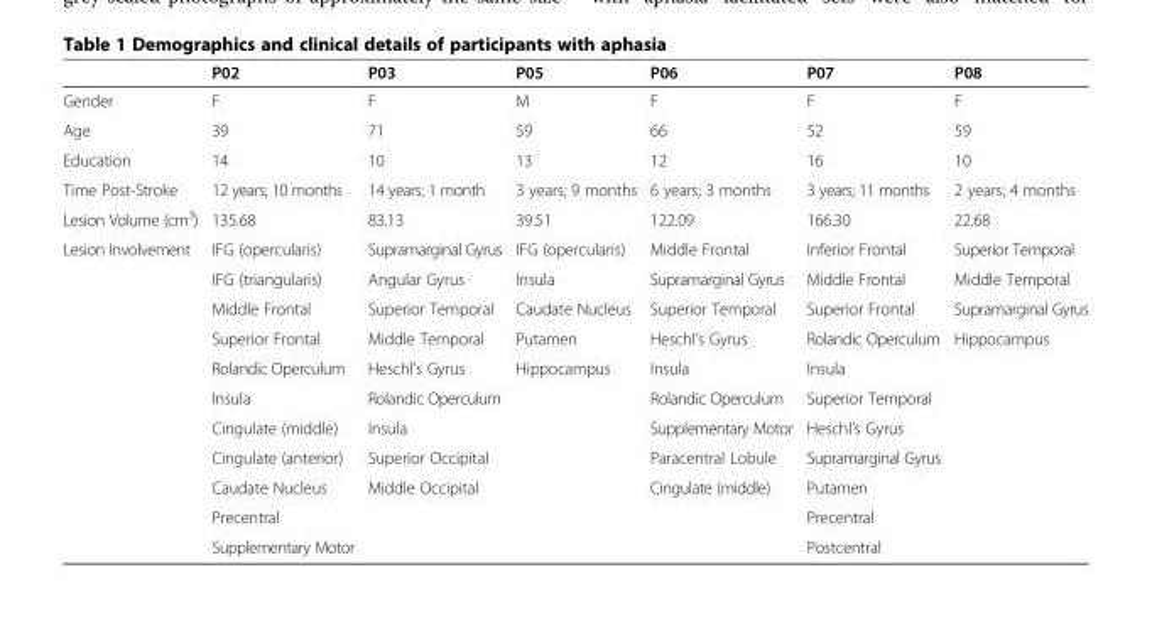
<table><thead><tr><td></td><td>P02</td><td>P03</td><td>P05</td><td>P06</td><td>P07</td><td>P08</td></tr></thead><tbody><tr><td>Gender</td><td>F</td><td>F</td><td>M</td><td>F</td><td>F</td><td>F</td></tr><tr><td>Age</td><td>39</td><td>71</td><td>59</td><td>66</td><td>52</td><td>59</td></tr><tr><td>Education</td><td>14</td><td>10</td><td>13</td><td>12</td><td>16</td><td>10</td></tr><tr><td>Time Post-Stroke</td><td>12 years; 10 months</td><td>14 years; 1 month</td><td>3 years; 9 months</td><td>6 years; 3 months</td><td>3 years; 11 months</td><td>2 years; 4 months</td></tr><tr><td>Lesion Volume (cm<sup>3</sup>)</td><td>135.68</td><td>83.13</td><td>39.51</td><td>122.09</td><td>166.30</td><td>22.68</td></tr><tr><td rowspan="11">Lesion Involvement</td><td>IFG (opercularis)</td><td>Supramarginal Gyrus</td><td>IFG (opercularis)</td><td>Middle Frontal</td><td>Inferior Frontal</td><td>Superior Temporal</td></tr><tr><td>IFG (triangularis)</td><td>Angular Gyrus</td><td>Insula</td><td>Supramarginal Gyrus</td><td>Middle Frontal</td><td>Middle Temporal</td></tr><tr><td>Middle Frontal</td><td>Superior Temporal</td><td>Caudate Nucleus</td><td>Superior Temporal</td><td>Superior Frontal</td><td>Supramarginal Gyrus</td></tr><tr><td>Superior Frontal</td><td>Middle Temporal</td><td>Putamen</td><td>Heschl’s Gyrus</td><td>Rolandic Operculum</td><td>Hippocampus</td></tr><tr><td>Rolandic Operculum</td><td>Heschl’s Gyrus</td><td>Hippocampus</td><td>Insula</td><td>Insula</td><td></td></tr><tr><td>Insula</td><td>Rolandic Operculum</td><td></td><td>Rolandic Operculum</td><td>Superior Temporal</td><td></td></tr><tr><td>Cingulate (middle)</td><td>Insula</td><td></td><td>Supplementary Motor</td><td>Heschl’s Gyrus</td><td></td></tr><tr><td>Cingulate (anterior)</td><td>Superior Occipital</td><td></td><td>Paracentral Lobule</td><td>Supramarginal Gyrus</td><td></td></tr><tr><td>Caudate Nucleus</td><td>Middle Occipital</td><td></td><td>Cingulate (middle)</td><td>Putamen</td><td></td></tr><tr><td>Precentral</td><td></td><td></td><td></td><td>Precentral</td><td></td></tr><tr><td>Supplementary Motor</td><td></td><td></td><td></td><td>Postcentral</td><td></td></tr></tbody></table>